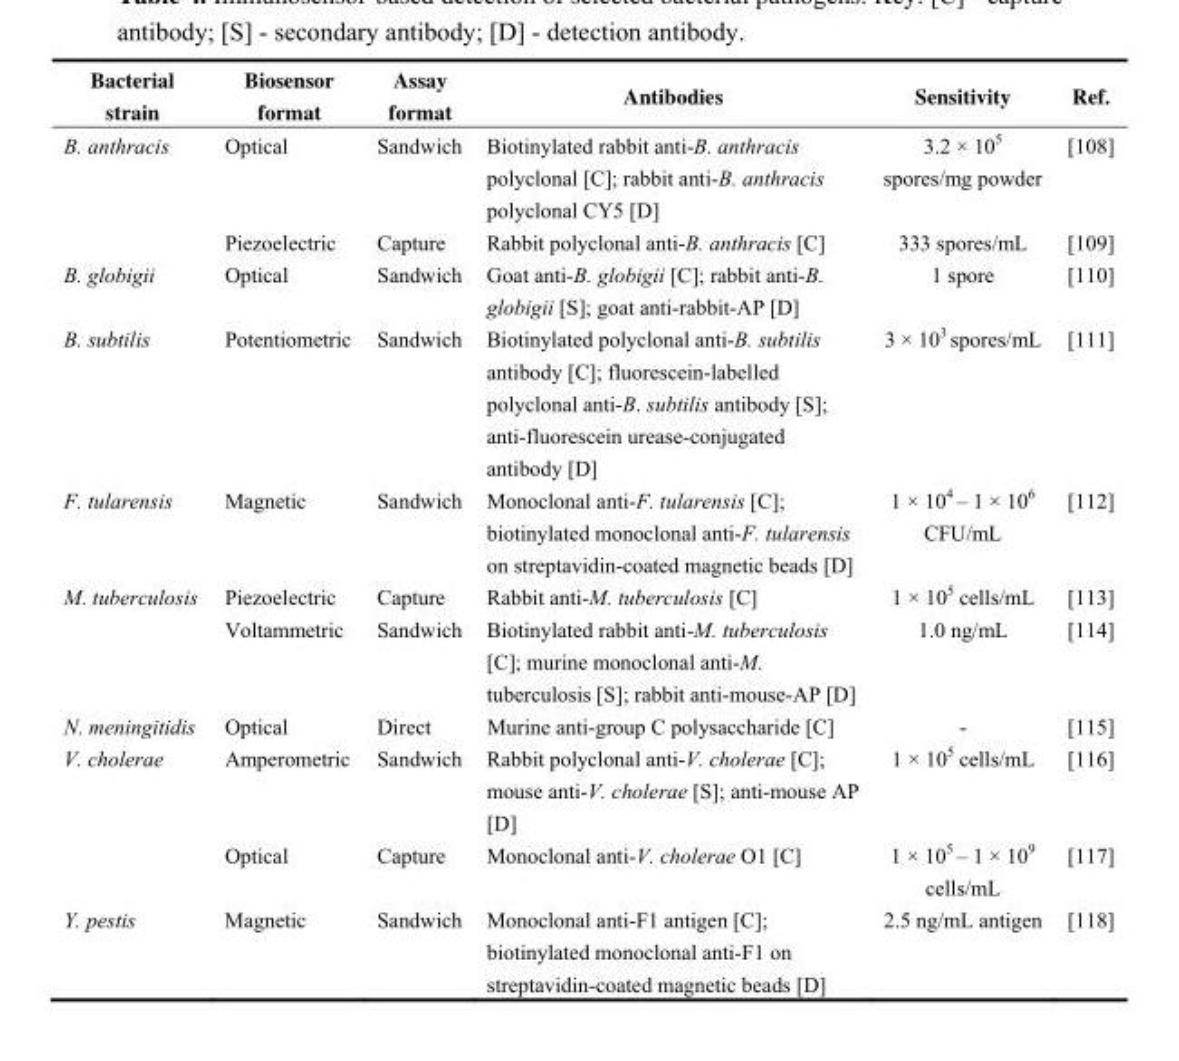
<table><thead><tr><td>Bacterial strain</td><td>Biosensor format</td><td>Assay format</td><td>Antibodies</td><td>Sensitivity</td><td>Ref.</td></tr></thead><tbody><tr><td rowspan="2">B. anthracis</td><td>Optical</td><td>Sandwich</td><td>Biotinylated rabbit anti-B. anthracis polyclonal [C]; rabbit anti-B. anthracis polyclonal CY5 [D]</td><td>3.2 × 10<sup>5</sup> spores/mg powder</td><td>[108]</td></tr><tr><td>Piezoelectric</td><td>Capture</td><td>Rabbit polyclonal anti-B. anthracis [C]</td><td>333 spores/mL</td><td>[109]</td></tr><tr><td>B. globigii</td><td>Optical</td><td>Sandwich</td><td>Goat anti-B. globigii [C]; rabbit anti-B. globigii [S]; goat anti-rabbit-AP [D]</td><td>1 spore</td><td>[110]</td></tr><tr><td>B. subtilis</td><td>Potentiometric</td><td>Sandwich</td><td>Biotinylated polyclonal anti-B. subtilis antibody [C]; fluorescein-labelled polyclonal anti-B. subtilis antibody [S]; anti-fluorescein urease-conjugated antibody [D]</td><td>3 × 10<sup>3</sup> spores/mL</td><td>[111]</td></tr><tr><td>F. tularensis</td><td>Magnetic</td><td>Sandwich</td><td>Monoclonal anti-F. tularensis [C]; biotinylated monoclonal anti-F. tularensis on streptavidin-coated magnetic beads [D]</td><td>1 × 10<sup>4</sup> – 1 × 10<sup>6</sup> CFU/mL</td><td>[112]</td></tr><tr><td rowspan="2">M. tuberculosis</td><td>Piezoelectric</td><td>Capture</td><td>Rabbit anti-M. tuberculosis [C]</td><td>1 × 10<sup>5</sup> cells/mL</td><td>[113]</td></tr><tr><td>Voltammetric</td><td>Sandwich</td><td>Biotinylated rabbit anti-M. tuberculosis [C]; murine monoclonal anti-M. tuberculosis [S]; rabbit anti-mouse-AP [D]</td><td>1.0 ng/mL</td><td>[114]</td></tr><tr><td>N. meningitidis</td><td>Optical</td><td>Direct</td><td>Murine anti-group C polysaccharide [C]</td><td>-</td><td>[115]</td></tr><tr><td rowspan="2">V. cholerae</td><td>Amperometric</td><td>Sandwich</td><td>Rabbit polyclonal anti-V. cholerae [C]; mouse anti-V. cholerae [S]; anti-mouse AP [D]</td><td>1 × 10<sup>5</sup> cells/mL</td><td>[116]</td></tr><tr><td>Optical</td><td>Capture</td><td>Monoclonal anti-V. cholerae O1 [C]</td><td>1 × 10<sup>5</sup> – 1 × 10<sup>9</sup> cells/mL</td><td>[117]</td></tr><tr><td>Y. pestis</td><td>Magnetic</td><td>Sandwich</td><td>Monoclonal anti-F1 antigen [C]; biotinylated monoclonal anti-F1 on streptavidin-coated magnetic beads [D]</td><td>2.5 ng/mL antigen</td><td>[118]</td></tr></tbody></table>